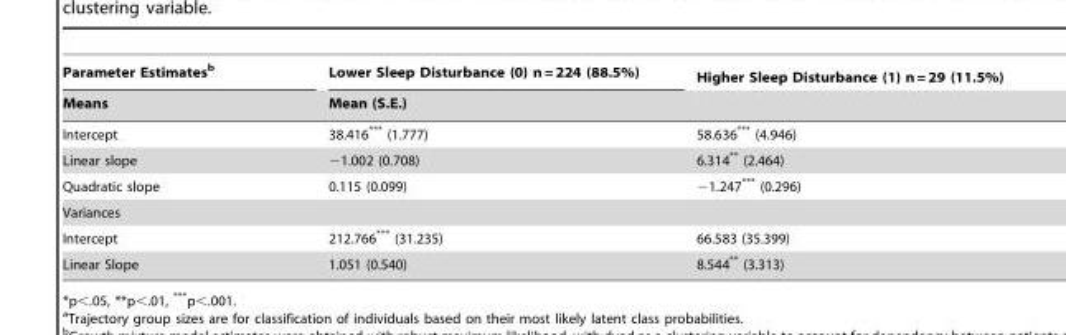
<table><thead><tr><td rowspan="2">Parameter Estimates<sup>b</sup> Means</td><td rowspan="2">Lower Sleep Disturbance (0) n = 224 (88.5%) Mean (S.E.)</td><td rowspan="2">Higher Sleep Disturbance (1) n = 29 (11.5%)</td></tr><tr></tr></thead><tbody><tr><td>Intercept</td><td>38.416*** (1.777)</td><td>58.636*** (4.946)</td></tr><tr><td>Linear slope</td><td>−1.002 (0.708)</td><td>6.314** (2.464)</td></tr><tr><td>Quadratic slope</td><td>0.115 (0.099)</td><td>−1.247*** (0.296)</td></tr><tr><td colspan="3">Variances</td></tr><tr><td>Intercept</td><td>212.766*** (31.235)</td><td>66.583 (35.399)</td></tr><tr><td>Linear Slope</td><td>1.051 (0.540)</td><td>8.544** (3.313)</td></tr></tbody></table>